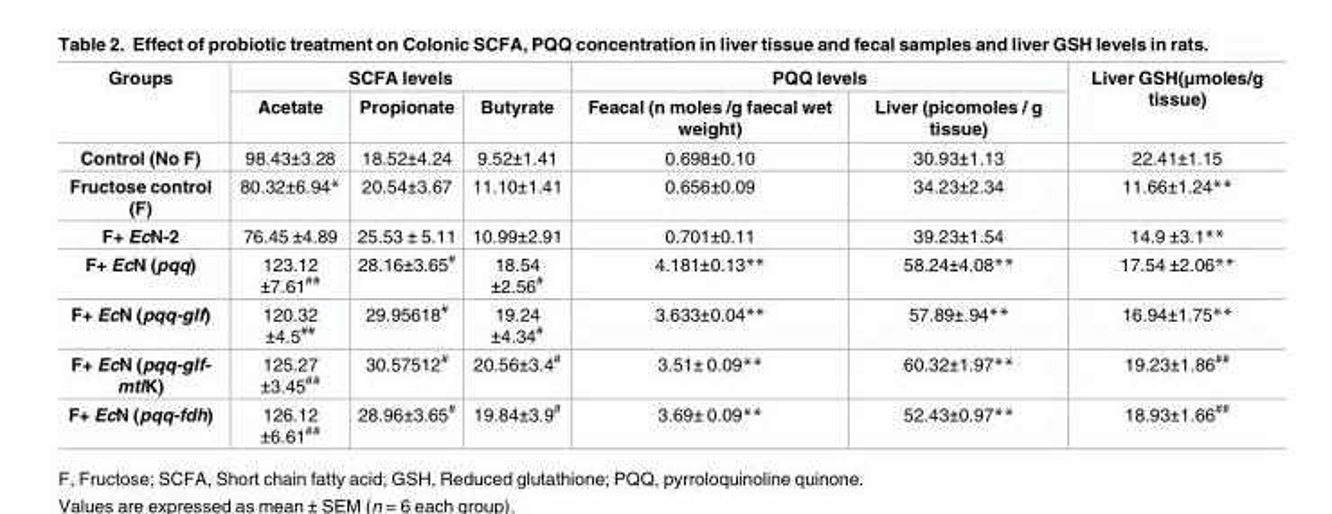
<table><thead><tr><td rowspan="2">Groups</td><td colspan="3">SCFA levels</td><td colspan="2">PQQ levels</td><td rowspan="2">Liver GSH(μmoles/g tissue)</td></tr><tr><td>Acetate</td><td>Propionate</td><td>Butyrate</td><td>Feacal (n moles /g faecal wet weight)</td><td>Liver (picomoles / g tissue)</td></tr></thead><tbody><tr><td>Control (No F)</td><td>98.43±3.28</td><td>18.52±4.24</td><td>9.52±1.41</td><td>0.698±0.10</td><td>30.93±1.13</td><td>22.41±1.15</td></tr><tr><td>Fructose control (F)</td><td>80.32±6.94*</td><td>20.54±3.67</td><td>11.10±1.41</td><td>0.656±0.09</td><td>34.23±2.34</td><td>11.66±1.24**</td></tr><tr><td>F+ EcN-2</td><td>76.45 ±4.89</td><td>25.53 ± 5.11</td><td>10.99±2.91</td><td>0.701±0.11</td><td>39.23±1.54</td><td>14.9 ±3.1**</td></tr><tr><td>F+ EcN (pqq)</td><td>123.12 ±7.61<sup>##</sup></td><td>28.16±3.65<sup>#</sup></td><td>18.54 ±2.56<sup>#</sup></td><td>4.181±0.13**</td><td>58.24±4.08**</td><td>17.54 ±2.06**</td></tr><tr><td>F+ EcN (pqq-glf)</td><td>120.32 ±4.5<sup>##</sup></td><td>29.95618<sup>#</sup></td><td>19.24 ±4.34<sup>#</sup></td><td>3.633±0.04**</td><td>57.89±.94**</td><td>16.94±1.75**</td></tr><tr><td>F+ EcN (pqq-glf- mtlK)</td><td>125.27 ±3.45<sup>##</sup></td><td>30.57512<sup>#</sup></td><td>20.56±3.4<sup>#</sup></td><td>3.51± 0.09**</td><td>60.32±1.97**</td><td>19.23±1.86<sup>##</sup></td></tr><tr><td>F+ EcN (pqq-fdh)</td><td>126.12 ±6.61<sup>##</sup></td><td>28.96±3.65<sup>#</sup></td><td>19.84±3.9<sup>#</sup></td><td>3.69± 0.09**</td><td>52.43±0.97**</td><td>18.93±1.66<sup>##</sup></td></tr></tbody></table>